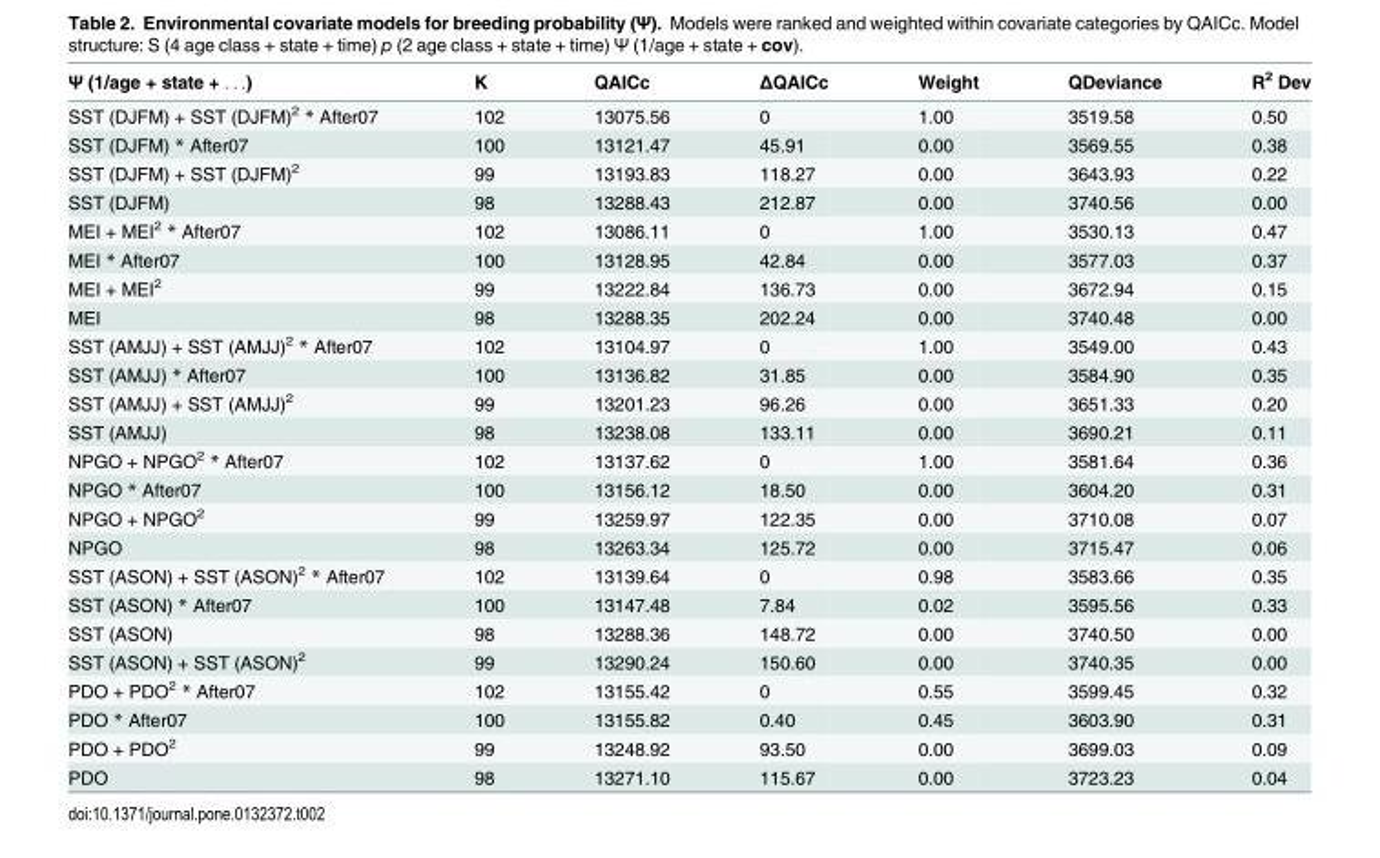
<table><thead><tr><td>Ψ (1/age + state + . . .)</td><td>K</td><td>QAICc</td><td>ΔQAICc</td><td>Weight</td><td>QDeviance</td><td>R<sup>2</sup> Dev</td></tr></thead><tbody><tr><td>SST (DJFM) + SST (DJFM)<sup>2</sup> * After07</td><td>102</td><td>13075.56</td><td>0</td><td>1.00</td><td>3519.58</td><td>0.50</td></tr><tr><td>SST (DJFM) * After07</td><td>100</td><td>13121.47</td><td>45.91</td><td>0.00</td><td>3569.55</td><td>0.38</td></tr><tr><td>SST (DJFM) + SST (DJFM)<sup>2</sup></td><td>99</td><td>13193.83</td><td>118.27</td><td>0.00</td><td>3643.93</td><td>0.22</td></tr><tr><td>SST (DJFM)</td><td>98</td><td>13288.43</td><td>212.87</td><td>0.00</td><td>3740.56</td><td>0.00</td></tr><tr><td>MEI + MEI<sup>2</sup> * After07</td><td>102</td><td>13086.11</td><td>0</td><td>1.00</td><td>3530.13</td><td>0.47</td></tr><tr><td>MEI * After07</td><td>100</td><td>13128.95</td><td>42.84</td><td>0.00</td><td>3577.03</td><td>0.37</td></tr><tr><td>MEI + MEI<sup>2</sup></td><td>99</td><td>13222.84</td><td>136.73</td><td>0.00</td><td>3672.94</td><td>0.15</td></tr><tr><td>MEI</td><td>98</td><td>13288.35</td><td>202.24</td><td>0.00</td><td>3740.48</td><td>0.00</td></tr><tr><td>SST (AMJJ) + SST (AMJJ)<sup>2</sup> * After07</td><td>102</td><td>13104.97</td><td>0</td><td>1.00</td><td>3549.00</td><td>0.43</td></tr><tr><td>SST (AMJJ) * After07</td><td>100</td><td>13136.82</td><td>31.85</td><td>0.00</td><td>3584.90</td><td>0.35</td></tr><tr><td>SST (AMJJ) + SST (AMJJ)<sup>2</sup></td><td>99</td><td>13201.23</td><td>96.26</td><td>0.00</td><td>3651.33</td><td>0.20</td></tr><tr><td>SST (AMJJ)</td><td>98</td><td>13238.08</td><td>133.11</td><td>0.00</td><td>3690.21</td><td>0.11</td></tr><tr><td>NPGO + NPGO<sup>2</sup> * After07</td><td>102</td><td>13137.62</td><td>0</td><td>1.00</td><td>3581.64</td><td>0.36</td></tr><tr><td>NPGO * After07</td><td>100</td><td>13156.12</td><td>18.50</td><td>0.00</td><td>3604.20</td><td>0.31</td></tr><tr><td>NPGO + NPGO<sup>2</sup></td><td>99</td><td>13259.97</td><td>122.35</td><td>0.00</td><td>3710.08</td><td>0.07</td></tr><tr><td>NPGO</td><td>98</td><td>13263.34</td><td>125.72</td><td>0.00</td><td>3715.47</td><td>0.06</td></tr><tr><td>SST (ASON) + SST (ASON)<sup>2</sup> * After07</td><td>102</td><td>13139.64</td><td>0</td><td>0.98</td><td>3583.66</td><td>0.35</td></tr><tr><td>SST (ASON) * After07</td><td>100</td><td>13147.48</td><td>7.84</td><td>0.02</td><td>3595.56</td><td>0.33</td></tr><tr><td>SST (ASON)</td><td>98</td><td>13288.36</td><td>148.72</td><td>0.00</td><td>3740.50</td><td>0.00</td></tr><tr><td>SST (ASON) + SST (ASON)<sup>2</sup></td><td>99</td><td>13290.24</td><td>150.60</td><td>0.00</td><td>3740.35</td><td>0.00</td></tr><tr><td>PDO + PDO<sup>2</sup> * After07</td><td>102</td><td>13155.42</td><td>0</td><td>0.55</td><td>3599.45</td><td>0.32</td></tr><tr><td>PDO * After07</td><td>100</td><td>13155.82</td><td>0.40</td><td>0.45</td><td>3603.90</td><td>0.31</td></tr><tr><td>PDO + PDO<sup>2</sup></td><td>99</td><td>13248.92</td><td>93.50</td><td>0.00</td><td>3699.03</td><td>0.09</td></tr><tr><td>PDO</td><td>98</td><td>13271.10</td><td>115.67</td><td>0.00</td><td>3723.23</td><td>0.04</td></tr></tbody></table>